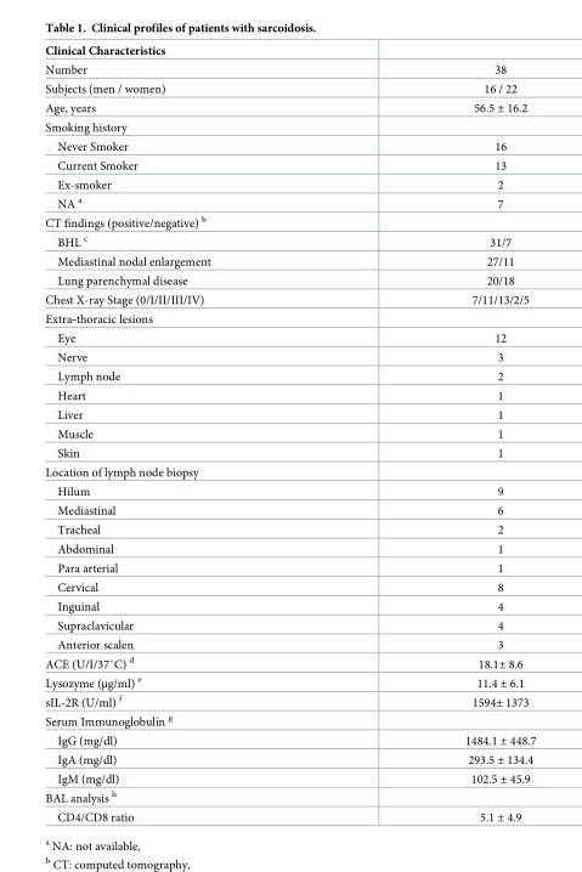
<table><thead><tr><td>Clinical Characteristics</td><td></td></tr></thead><tbody><tr><td>Number</td><td>38</td></tr><tr><td>Subjects (men / women)</td><td>16 / 22</td></tr><tr><td>Age, years</td><td>56.5 ± 16.2</td></tr><tr><td colspan="2">Smoking history</td></tr><tr><td>Never Smoker</td><td>16</td></tr><tr><td>Current Smoker</td><td>13</td></tr><tr><td>Ex-smoker</td><td>2</td></tr><tr><td>NA <sup>a</sup></td><td>7</td></tr><tr><td colspan="2">CT findings (positive/negative) <sup>b</sup></td></tr><tr><td>BHL <sup>c</sup></td><td>31/7</td></tr><tr><td>Mediastinal nodal enlargement</td><td>27/11</td></tr><tr><td>Lung parenchymal disease</td><td>20/18</td></tr><tr><td>Chest X-ray Stage (0/I/II/III/IV)</td><td>7/11/13/2/5</td></tr><tr><td colspan="2">Extra-thoracic lesions</td></tr><tr><td>Eye</td><td>12</td></tr><tr><td>Nerve</td><td>3</td></tr><tr><td>Lymph node</td><td>2</td></tr><tr><td>Heart</td><td>1</td></tr><tr><td>Liver</td><td>1</td></tr><tr><td>Muscle</td><td>1</td></tr><tr><td>Skin</td><td>1</td></tr><tr><td colspan="2">Location of lymph node biopsy</td></tr><tr><td>Hilum</td><td>9</td></tr><tr><td>Mediastinal</td><td>6</td></tr><tr><td>Tracheal</td><td>2</td></tr><tr><td>Abdominal</td><td>1</td></tr><tr><td>Para arterial</td><td>1</td></tr><tr><td>Cervical</td><td>8</td></tr><tr><td>Inguinal</td><td>4</td></tr><tr><td>Supraclavicular</td><td>4</td></tr><tr><td>Anterior scalen</td><td>3</td></tr><tr><td>ACE (U/I/37˚C) d</td><td>18.1± 8.6</td></tr><tr><td>Lysozyme (μg/ml) <sup>e</sup></td><td>11.4 ± 6.1</td></tr><tr><td>sIL-2R (U/ml) <sup>f</sup></td><td>1594± 1373</td></tr><tr><td colspan="2">Serum Immunoglobulin <sup>g</sup></td></tr><tr><td>IgG (mg/dl)</td><td>1484.1 ± 448.7</td></tr><tr><td>IgA (mg/dl)</td><td>293.5 ± 134.4</td></tr><tr><td>IgM (mg/dl)</td><td>102.5 ± 45.9</td></tr><tr><td colspan="2">BAL analysis <sup>h</sup></td></tr><tr><td>CD4/CD8 ratio</td><td>5.1 ± 4.9</td></tr></tbody></table>